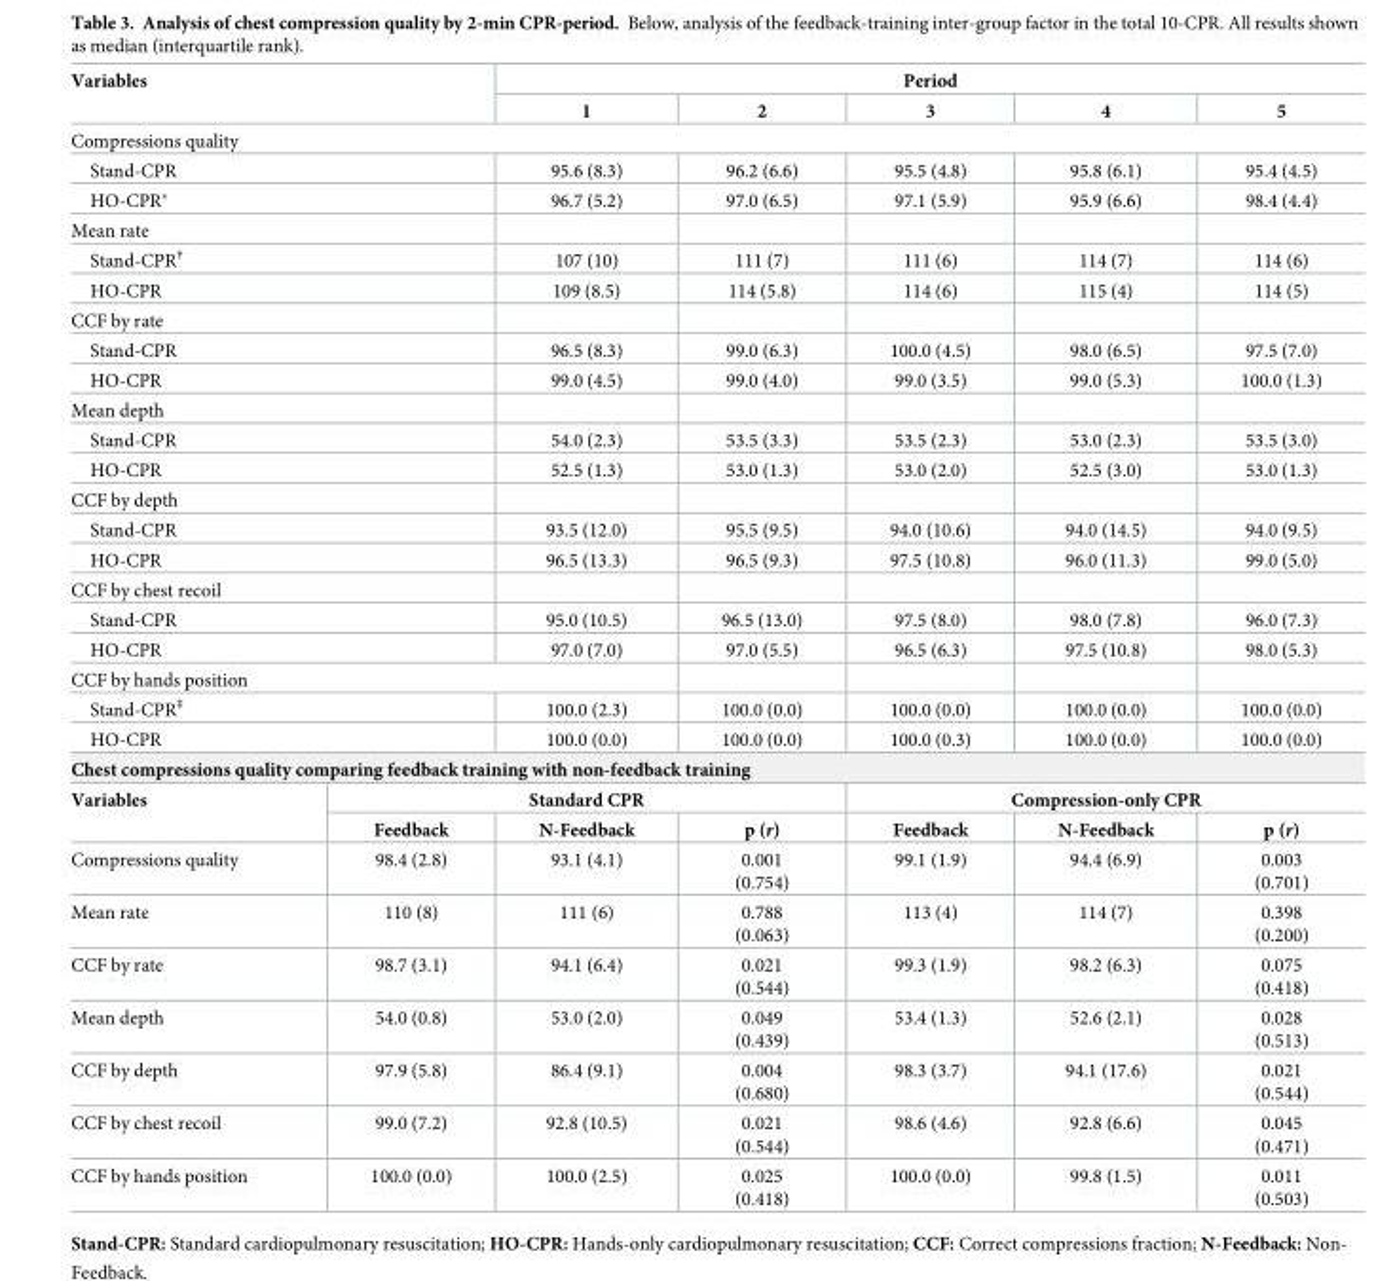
<table><tbody><tr><td rowspan="2" colspan="2">Variables</td><td colspan="5">Period</td></tr><tr><td>1</td><td>2</td><td>3</td><td>4</td><td>5</td></tr><tr><td colspan="7">Compressions quality</td></tr><tr><td colspan="2">Stand-CPR</td><td>95.6 (8.3)</td><td>96.2 (6.6)</td><td>95.5 (4.8)</td><td>95.8 (6.1)</td><td>95.4 (4.5)</td></tr><tr><td colspan="2">HO-CPR*</td><td>96.7 (5.2)</td><td>97.0 (6.5)</td><td>97.1 (5.9)</td><td>95.9 (6.6)</td><td>98.4 (4.4)</td></tr><tr><td colspan="7">Mean rate</td></tr><tr><td colspan="2">Stand-CPR<sup>†</sup></td><td>107 (10)</td><td>111 (7)</td><td>111 (6)</td><td>114 (7)</td><td>114 (6)</td></tr><tr><td colspan="2">HO-CPR</td><td>109 (8.5)</td><td>114 (5.8)</td><td>114 (6)</td><td>115 (4)</td><td>114 (5)</td></tr><tr><td colspan="7">CCF by rate</td></tr><tr><td colspan="2">Stand-CPR</td><td>96.5 (8.3)</td><td>99.0 (6.3)</td><td>100.0 (4.5)</td><td>98.0 (6.5)</td><td>97.5 (7.0)</td></tr><tr><td colspan="2">HO-CPR</td><td>99.0 (4.5)</td><td>99.0 (4.0)</td><td>99.0 (3.5)</td><td>99.0 (5.3)</td><td>100.0 (1.3)</td></tr><tr><td colspan="7">Mean depth</td></tr><tr><td colspan="2">Stand-CPR</td><td>54.0 (2.3)</td><td>53.5 (3.3)</td><td>53.5 (2.3)</td><td>53.0 (2.3)</td><td>53.5 (3.0)</td></tr><tr><td colspan="2">HO-CPR</td><td>52.5 (1.3)</td><td>53.0 (1.3)</td><td>53.0 (2.0)</td><td>52.5 (3.0)</td><td>53.0 (1.3)</td></tr><tr><td colspan="7">CCF by depth</td></tr><tr><td colspan="2">Stand-CPR</td><td>93.5 (12.0)</td><td>95.5 (9.5)</td><td>94.0 (10.6)</td><td>94.0 (14.5)</td><td>94.0 (9.5)</td></tr><tr><td colspan="2">HO-CPR</td><td>96.5 (13.3)</td><td>96.5 (9.3)</td><td>97.5 (10.8)</td><td>96.0 (11.3)</td><td>99.0 (5.0)</td></tr><tr><td colspan="7">CCF by chest recoil</td></tr><tr><td colspan="2">Stand-CPR</td><td>95.0 (10.5)</td><td>96.5 (13.0)</td><td>97.5 (8.0)</td><td>98.0 (7.8)</td><td>96.0 (7.3)</td></tr><tr><td colspan="2">HO-CPR</td><td>97.0 (7.0)</td><td>97.0 (5.5)</td><td>96.5 (6.3)</td><td>97.5 (10.8)</td><td>98.0 (5.3)</td></tr><tr><td colspan="7">CCF by hands position</td></tr><tr><td colspan="2">Stand-CPR<sup>‡</sup></td><td>100.0 (2.3)</td><td>100.0 (0.0)</td><td>100.0 (0.0)</td><td>100.0 (0.0)</td><td>100.0 (0.0)</td></tr><tr><td colspan="2">HO-CPR</td><td>100.0 (0.0)</td><td>100.0 (0.0)</td><td>100.0 (0.3)</td><td>100.0 (0.0)</td><td>100.0 (0.0)</td></tr><tr><td colspan="7">Chest compressions quality comparing feedback training with non-feedback training</td></tr><tr><td rowspan="2">Variables</td><td colspan="3">Standard CPR</td><td colspan="3">Compression-only CPR</td></tr><tr><td>Feedback</td><td>N-Feedback</td><td>p (r)</td><td>Feedback</td><td>N-Feedback</td><td>p (r)</td></tr><tr><td>Compressions quality</td><td>98.4 (2.8)</td><td>93.1 (4.1)</td><td>0.001 (0.754)</td><td>99.1 (1.9)</td><td>94.4 (6.9)</td><td>0.003 (0.701)</td></tr><tr><td>Mean rate</td><td>110 (8)</td><td>111 (6)</td><td>0.788 (0.063)</td><td>113 (4)</td><td>114 (7)</td><td>0.398 (0.200)</td></tr><tr><td>CCF by rate</td><td>98.7 (3.1)</td><td>94.1 (6.4)</td><td>0.021 (0.544)</td><td>99.3 (1.9)</td><td>98.2 (6.3)</td><td>0.075 (0.418)</td></tr><tr><td>Mean depth</td><td>54.0 (0.8)</td><td>53.0 (2.0)</td><td>0.049 (0.439)</td><td>53.4 (1.3)</td><td>52.6 (2.1)</td><td>0.028 (0.513)</td></tr><tr><td>CCF by depth</td><td>97.9 (5.8)</td><td>86.4 (9.1)</td><td>0.004 (0.680)</td><td>98.3 (3.7)</td><td>94.1 (17.6)</td><td>0.021 (0.544)</td></tr><tr><td>CCF by chest recoil</td><td>99.0 (7.2)</td><td>92.8 (10.5)</td><td>0.021 (0.544)</td><td>98.6 (4.6)</td><td>92.8 (6.6)</td><td>0.045 (0.471)</td></tr><tr><td>CCF by hands position</td><td>100.0 (0.0)</td><td>100.0 (2.5)</td><td>0.025 (0.418)</td><td>100.0 (0.0)</td><td>99.8 (1.5)</td><td>0.011 (0.503)</td></tr></tbody></table>